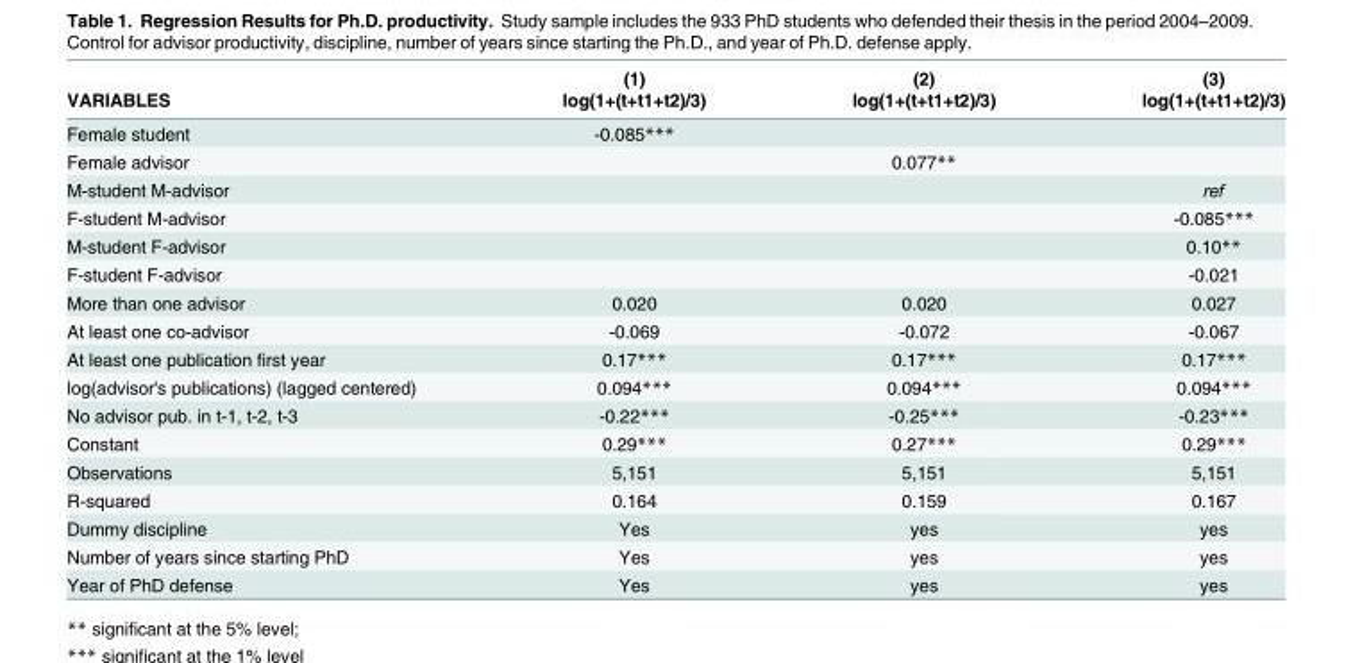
<table><thead><tr><td rowspan="2">VARIABLES</td><td rowspan="2">(1) log(1+(t+t1+t2)/3)</td><td rowspan="2">(2) log(1+(t+t1+t2)/3)</td><td rowspan="2">(3) log(1+(t+t1+t2)/3)</td></tr><tr></tr></thead><tbody><tr><td>Female student</td><td>-0.085***</td><td></td><td></td></tr><tr><td>Female advisor</td><td></td><td>0.077**</td><td></td></tr><tr><td>M-student M-advisor</td><td></td><td></td><td>ref</td></tr><tr><td>F-student M-advisor</td><td></td><td></td><td>-0.085***</td></tr><tr><td>M-student F-advisor</td><td></td><td></td><td>0.10**</td></tr><tr><td>F-student F-advisor</td><td></td><td></td><td>-0.021</td></tr><tr><td>More than one advisor</td><td>0.020</td><td>0.020</td><td>0.027</td></tr><tr><td>At least one co-advisor</td><td>-0.069</td><td>-0.072</td><td>-0.067</td></tr><tr><td>At least one publication first year</td><td>0.17***</td><td>0.17***</td><td>0.17***</td></tr><tr><td>log(advisor&#x27;s publications) (lagged centered)</td><td>0.094***</td><td>0.094***</td><td>0.094***</td></tr><tr><td>No advisor pub. in t-1, t-2, t-3</td><td>-0.22***</td><td>-0.25***</td><td>-0.23***</td></tr><tr><td>Constant</td><td>0.29***</td><td>0.27***</td><td>0.29***</td></tr><tr><td>Observations</td><td>5,151</td><td>5,151</td><td>5,151</td></tr><tr><td>R-squared</td><td>0.164</td><td>0.159</td><td>0.167</td></tr><tr><td>Dummy discipline</td><td>Yes</td><td>yes</td><td>yes</td></tr><tr><td>Number of years since starting PhD</td><td>Yes</td><td>yes</td><td>yes</td></tr><tr><td>Year of PhD defense</td><td>Yes</td><td>yes</td><td>yes</td></tr></tbody></table>